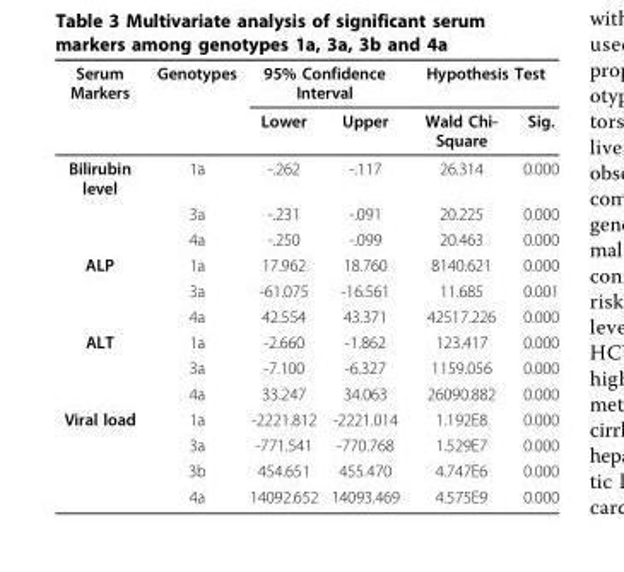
<table><thead><tr><td rowspan="2">Serum Markers</td><td rowspan="2">Genotypes</td><td colspan="2">95% Confidence Interval</td><td colspan="2">Hypothesis Test</td></tr><tr><td>Lower</td><td>Upper</td><td>Wald Chi- Square</td><td>Sig.</td></tr></thead><tbody><tr><td rowspan="3">Bilirubin level</td><td>1a</td><td>-.262</td><td>-.117</td><td>26.314</td><td>0.000</td></tr><tr><td>3a</td><td>-.231</td><td>-.091</td><td>20.225</td><td>0.000</td></tr><tr><td>4a</td><td>-.250</td><td>-.099</td><td>20.463</td><td>0.000</td></tr><tr><td rowspan="3">ALP</td><td>1a</td><td>17.962</td><td>18.760</td><td>8140.621</td><td>0.000</td></tr><tr><td>3a</td><td>-61.075</td><td>-16.561</td><td>11.685</td><td>0.001</td></tr><tr><td>4a</td><td>42.554</td><td>43.371</td><td>42517.226</td><td>0.000</td></tr><tr><td rowspan="3">ALT</td><td>1a</td><td>-2.660</td><td>-1.862</td><td>123.417</td><td>0.000</td></tr><tr><td>3a</td><td>-7.100</td><td>-6.327</td><td>1159.056</td><td>0.000</td></tr><tr><td>4a</td><td>33.247</td><td>34.063</td><td>26090.882</td><td>0.000</td></tr><tr><td rowspan="4">Viral load</td><td>1a</td><td>-2221.812</td><td>-2221.014</td><td>1.192E8</td><td>0.000</td></tr><tr><td>3a</td><td>-771.541</td><td>-770.768</td><td>1.529E7</td><td>0.000</td></tr><tr><td>3b</td><td>454.651</td><td>455.470</td><td>4.747E6</td><td>0.000</td></tr><tr><td>4a</td><td>14092.652</td><td>14093.469</td><td>4.575E9</td><td>0.000</td></tr></tbody></table>